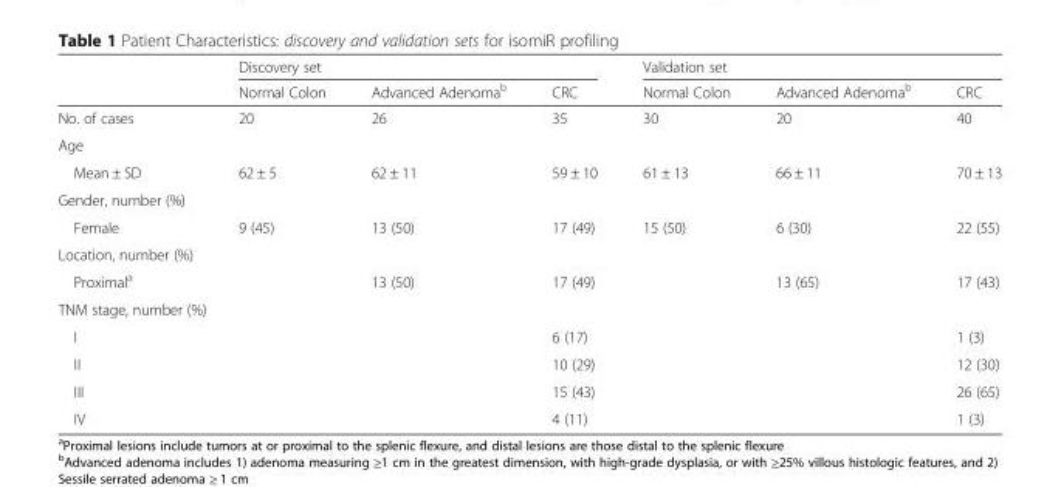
<table><thead><tr><td rowspan="2"></td><td colspan="3">Discovery set</td><td colspan="3">Validation set</td></tr><tr><td>Normal Colon</td><td>Advanced Adenoma<sup>b</sup></td><td>CRC</td><td>Normal Colon</td><td>Advanced Adenoma<sup>b</sup></td><td>CRC</td></tr></thead><tbody><tr><td>No. of cases</td><td>20</td><td>26</td><td>35</td><td>30</td><td>20</td><td>40</td></tr><tr><td colspan="7">Age</td></tr><tr><td>Mean ± SD</td><td>62 ± 5</td><td>62 ± 11</td><td>59 ± 10</td><td>61 ± 13</td><td>66 ± 11</td><td>70 ± 13</td></tr><tr><td colspan="7">Gender, number (%)</td></tr><tr><td>Female</td><td>9 (45)</td><td>13 (50)</td><td>17 (49)</td><td>15 (50)</td><td>6 (30)</td><td>22 (55)</td></tr><tr><td colspan="7">Location, number (%)</td></tr><tr><td>Proximal<sup>a</sup></td><td></td><td>13 (50)</td><td>17 (49)</td><td></td><td>13 (65)</td><td>17 (43)</td></tr><tr><td colspan="7">TNM stage, number (%)</td></tr><tr><td>I</td><td></td><td></td><td>6 (17)</td><td></td><td></td><td>1 (3)</td></tr><tr><td>II</td><td></td><td></td><td>10 (29)</td><td></td><td></td><td>12 (30)</td></tr><tr><td>III</td><td></td><td></td><td>15 (43)</td><td></td><td></td><td>26 (65)</td></tr><tr><td>IV</td><td></td><td></td><td>4 (11)</td><td></td><td></td><td>1 (3)</td></tr></tbody></table>